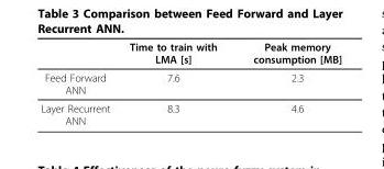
<table><thead><tr><td></td><td>Time to train with LMA [s]</td><td>Peak memory consumption [MB]</td></tr></thead><tbody><tr><td>Feed Forward ANN</td><td>7.6</td><td>2.3</td></tr><tr><td>Layer Recurrent ANN</td><td>8.3</td><td>4.6</td></tr></tbody></table>